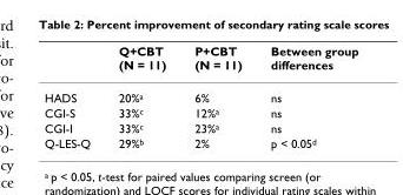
<table><thead><tr><td></td><td>Q+CBT (N = 11)</td><td>P+CBT (N = 11)</td><td>Between group differences</td></tr></thead><tbody><tr><td>HADS</td><td>20%<sup>a</sup></td><td>6%</td><td>ns</td></tr><tr><td>CGI-S</td><td>33%<sup>c</sup></td><td>12%<sup>a</sup></td><td>ns</td></tr><tr><td>CGI-I</td><td>33%<sup>c</sup></td><td>23%<sup>a</sup></td><td>ns</td></tr><tr><td>Q-LES-Q</td><td>29%<sup>b</sup></td><td>2%</td><td>p &lt; 0.05<sup>d</sup></td></tr></tbody></table>